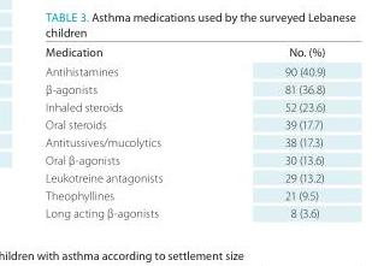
<table><thead><tr><td>Medication</td><td>no. (%)</td></tr></thead><tbody><tr><td>Antihistamines</td><td>90 (40.9)</td></tr><tr><td>β-agonists</td><td>81 (36.8)</td></tr><tr><td>Inhaled steroids</td><td>52 (23.6)</td></tr><tr><td>Oral steroids</td><td>39 (17.7)</td></tr><tr><td>Antitussives/mucolytics</td><td>38 (17.3)</td></tr><tr><td>Oral β-agonists</td><td>30 (13.6)</td></tr><tr><td>Leukotreine antagonists</td><td>29 (13.2)</td></tr><tr><td>Theophyllines</td><td>21 (9.5)</td></tr><tr><td>Long acting β-agonists</td><td>8 (3.6)</td></tr></tbody></table>